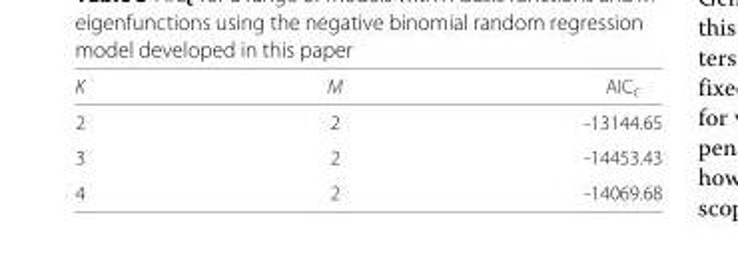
<table><thead><tr><td>K</td><td>M</td><td>AIC<sub>c</sub></td></tr></thead><tbody><tr><td>2</td><td>2</td><td>-13144.65</td></tr><tr><td>3</td><td>2</td><td>-14453.43</td></tr><tr><td>4</td><td>2</td><td>-14069.68</td></tr></tbody></table>